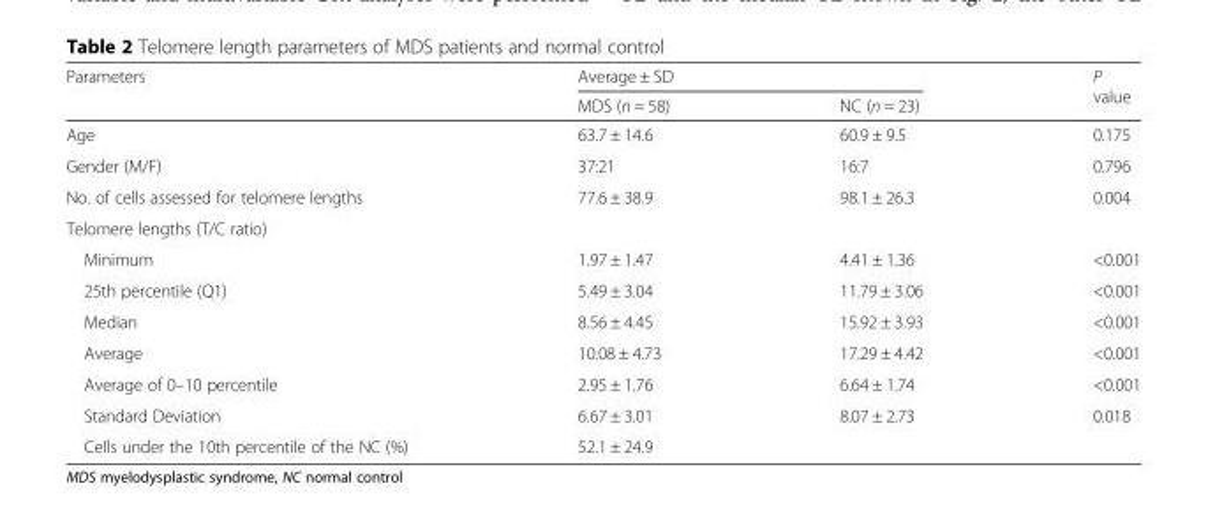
<table><thead><tr><td rowspan="2">Parameters</td><td colspan="2">Average ± SD</td><td rowspan="2">P value</td></tr><tr><td>MDS (n = 58)</td><td>NC (n = 23)</td></tr></thead><tbody><tr><td>Age</td><td>63.7 ± 14.6</td><td>60.9 ± 9.5</td><td>0.175</td></tr><tr><td>Gender (M/F)</td><td>37:21</td><td>16:7</td><td>0.796</td></tr><tr><td>No. of cells assessed for telomere lengths</td><td>77.6 ± 38.9</td><td>98.1 ± 26.3</td><td>0.004</td></tr><tr><td colspan="4">Telomere lengths (T/C ratio)</td></tr><tr><td>Minimum</td><td>1.97 ± 1.47</td><td>4.41 ± 1.36</td><td>&lt;0.001</td></tr><tr><td>25th percentile (Q1)</td><td>5.49 ± 3.04</td><td>11.79 ± 3.06</td><td>&lt;0.001</td></tr><tr><td>Median</td><td>8.56 ± 4.45</td><td>15.92 ± 3.93</td><td>&lt;0.001</td></tr><tr><td>Average</td><td>10.08 ± 4.73</td><td>17.29 ± 4.42</td><td>&lt;0.001</td></tr><tr><td>Average of 0–10 percentile</td><td>2.95 ± 1.76</td><td>6.64 ± 1.74</td><td>&lt;0.001</td></tr><tr><td>Standard Deviation</td><td>6.67 ± 3.01</td><td>8.07 ± 2.73</td><td>0.018</td></tr><tr><td>Cells under the 10th percentile of the NC (%)</td><td>52.1 ± 24.9</td><td></td><td></td></tr></tbody></table>